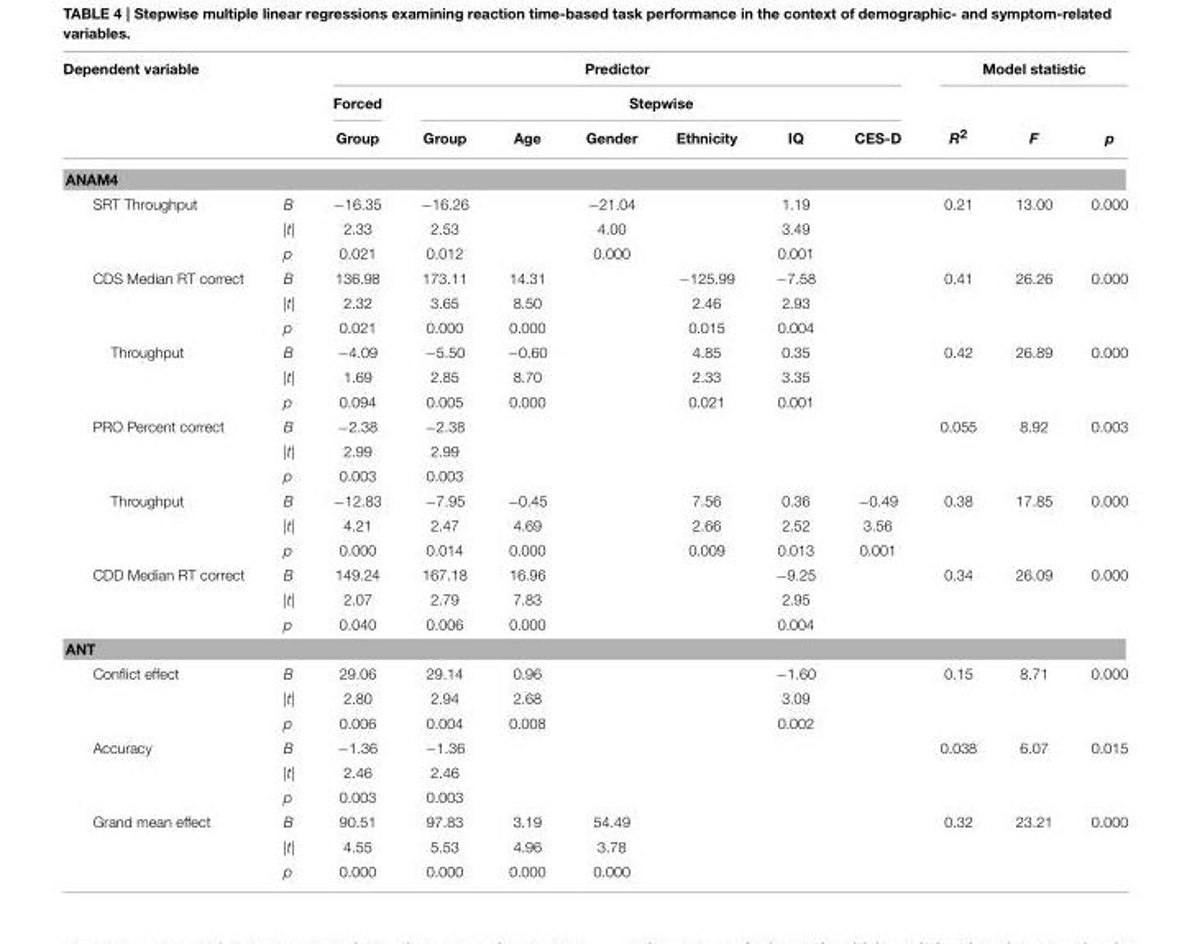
<table><thead><tr><td rowspan="3">Dependent variable</td><td rowspan="3"></td><td colspan="7">Predictor</td><td colspan="3">Model statistic</td></tr><tr><td rowspan="2">Forced Group</td><td colspan="6">Stepwise</td><td rowspan="2">R<sup>2</sup></td><td rowspan="2">F</td><td rowspan="2">p</td></tr><tr><td>Group</td><td>Age</td><td>Gender</td><td>Ethnicity</td><td>IQ</td><td>CES-D</td></tr></thead><tbody><tr><td colspan="12">ANAM4</td></tr><tr><td rowspan="3">SRT Throughput</td><td>B</td><td>−16.35</td><td>−16.26</td><td></td><td>−21.04</td><td></td><td>1.19</td><td></td><td>0.21</td><td>13.00</td><td>0.000</td></tr><tr><td>|t|</td><td>2.33</td><td>2.53</td><td></td><td>4.00</td><td></td><td>3.49</td><td></td><td></td><td></td><td></td></tr><tr><td>p</td><td>0.021</td><td>0.012</td><td></td><td>0.000</td><td></td><td>0.001</td><td></td><td></td><td></td><td></td></tr><tr><td rowspan="3">CDS Median RT correct</td><td>B</td><td>136.98</td><td>173.11</td><td>14.31</td><td></td><td>−125.99</td><td>−7.58</td><td></td><td>0.41</td><td>26.26</td><td>0.000</td></tr><tr><td>|t|</td><td>2.32</td><td>3.65</td><td>8.50</td><td></td><td>2.46</td><td>2.93</td><td></td><td></td><td></td><td></td></tr><tr><td>p</td><td>0.021</td><td>0.000</td><td>0.000</td><td></td><td>0.015</td><td>0.004</td><td></td><td></td><td></td><td></td></tr><tr><td rowspan="3">Throughput</td><td>B</td><td>−4.09</td><td>−5.50</td><td>−0.60</td><td></td><td>4.85</td><td>0.35</td><td></td><td>0.42</td><td>26.89</td><td>0.000</td></tr><tr><td>|t|</td><td>1.69</td><td>2.85</td><td>8.70</td><td></td><td>2.33</td><td>3.35</td><td></td><td></td><td></td><td></td></tr><tr><td>p</td><td>0.094</td><td>0.005</td><td>0.000</td><td></td><td>0.021</td><td>0.001</td><td></td><td></td><td></td><td></td></tr><tr><td rowspan="3">PRO Percent correct</td><td>B</td><td>−2.38</td><td>−2.38</td><td></td><td></td><td></td><td></td><td></td><td>0.055</td><td>8.92</td><td>0.003</td></tr><tr><td>|t|</td><td>2.99</td><td>2.99</td><td></td><td></td><td></td><td></td><td></td><td></td><td></td><td></td></tr><tr><td>p</td><td>0.003</td><td>0.003</td><td></td><td></td><td></td><td></td><td></td><td></td><td></td><td></td></tr><tr><td rowspan="3">Throughput</td><td>B</td><td>−12.83</td><td>−7.95</td><td>−0.45</td><td></td><td>7.56</td><td>0.36</td><td>−0.49</td><td>0.38</td><td>17.85</td><td>0.000</td></tr><tr><td>|t|</td><td>4.21</td><td>2.47</td><td>4.69</td><td></td><td>2.66</td><td>2.52</td><td>3.56</td><td></td><td></td><td></td></tr><tr><td>p</td><td>0.000</td><td>0.014</td><td>0.000</td><td></td><td>0.009</td><td>0.013</td><td>0.001</td><td></td><td></td><td></td></tr><tr><td rowspan="3">CDD Median RT correct</td><td>B</td><td>149.24</td><td>167.18</td><td>16.96</td><td></td><td></td><td>−9.25</td><td></td><td>0.34</td><td>26.09</td><td>0.000</td></tr><tr><td>|t|</td><td>2.07</td><td>2.79</td><td>7.83</td><td></td><td></td><td>2.95</td><td></td><td></td><td></td><td></td></tr><tr><td>p</td><td>0.040</td><td>0.006</td><td>0.000</td><td></td><td></td><td>0.004</td><td></td><td></td><td></td><td></td></tr><tr><td colspan="12">ANT</td></tr><tr><td rowspan="3">Conflict effect</td><td>B</td><td>29.06</td><td>29.14</td><td>0.96</td><td></td><td></td><td>−1.60</td><td></td><td>0.15</td><td>8.71</td><td>0.000</td></tr><tr><td>|t|</td><td>2.80</td><td>2.94</td><td>2.68</td><td></td><td></td><td>3.09</td><td></td><td></td><td></td><td></td></tr><tr><td>p</td><td>0.006</td><td>0.004</td><td>0.008</td><td></td><td></td><td>0.002</td><td></td><td></td><td></td><td></td></tr><tr><td rowspan="3">Accuracy</td><td>B</td><td>−1.36</td><td>−1.36</td><td></td><td></td><td></td><td></td><td></td><td>0.038</td><td>6.07</td><td>0.015</td></tr><tr><td>|t|</td><td>2.46</td><td>2.46</td><td></td><td></td><td></td><td></td><td></td><td></td><td></td><td></td></tr><tr><td>p</td><td>0.003</td><td>0.003</td><td></td><td></td><td></td><td></td><td></td><td></td><td></td><td></td></tr><tr><td rowspan="3">Grand mean effect</td><td>B</td><td>90.51</td><td>97.83</td><td>3.19</td><td>54.49</td><td></td><td></td><td></td><td>0.32</td><td>23.21</td><td>0.000</td></tr><tr><td>|t|</td><td>4.55</td><td>5.53</td><td>4.96</td><td>3.78</td><td></td><td></td><td></td><td></td><td></td><td></td></tr><tr><td>p</td><td>0.000</td><td>0.000</td><td>0.000</td><td>0.000</td><td></td><td></td><td></td><td></td><td></td><td></td></tr></tbody></table>